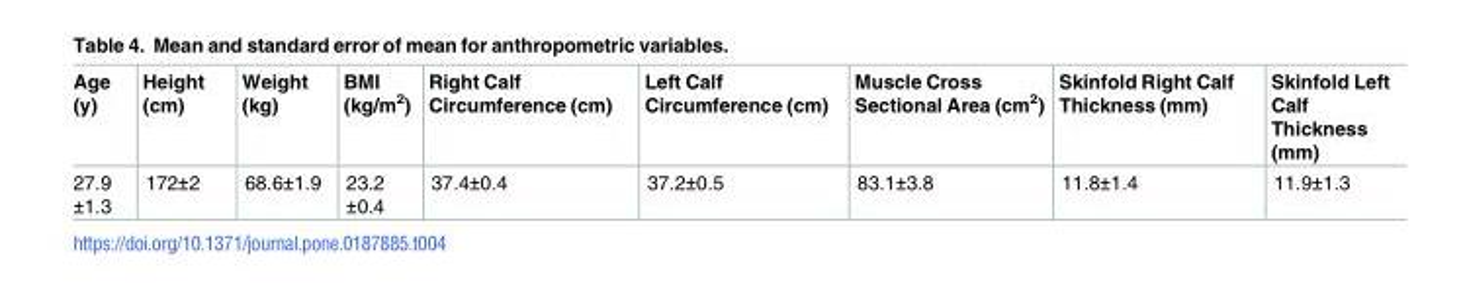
<table><thead><tr><td>Age (y)</td><td>Height (cm)</td><td>Weight (kg)</td><td>BMI (kg/m<sup>2</sup>)</td><td>Right Calf Circumference (cm)</td><td>Left Calf Circumference (cm)</td><td>Muscle Cross Sectional Area (cm<sup>2</sup>)</td><td>Skinfold Right Calf Thickness (mm)</td><td>Skinfold Left Calf Thickness (mm)</td></tr></thead><tbody><tr><td>27.9 ±1.3</td><td>172±2</td><td>68.6±1.9</td><td>23.2 ±0.4</td><td>37.4±0.4</td><td>37.2±0.5</td><td>83.1±3.8</td><td>11.8±1.4</td><td>11.9±1.3</td></tr></tbody></table>